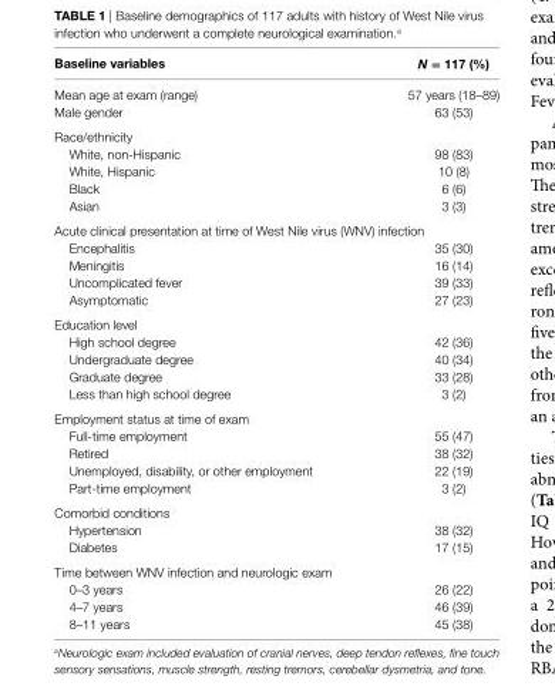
<table><thead><tr><td>Baseline variables</td><td>N = 117 (%)</td></tr></thead><tbody><tr><td>Mean age at exam (range)</td><td>57 years (18–89)</td></tr><tr><td>Male gender</td><td>63 (53)</td></tr><tr><td colspan="2">Race/ethnicity</td></tr><tr><td>White, non-Hispanic</td><td>98 (83)</td></tr><tr><td>White, Hispanic</td><td>10 (8)</td></tr><tr><td>Black</td><td>6 (6)</td></tr><tr><td>Asian</td><td>3 (3)</td></tr><tr><td colspan="2">Acute clinical presentation at time of West Nile virus (WNV) infection</td></tr><tr><td>Encephalitis</td><td>35 (30)</td></tr><tr><td>Meningitis</td><td>16 (14)</td></tr><tr><td>Uncomplicated fever</td><td>39 (33)</td></tr><tr><td>Asymptomatic</td><td>27 (23)</td></tr><tr><td colspan="2">Education level</td></tr><tr><td>High school degree</td><td>42 (36)</td></tr><tr><td>Undergraduate degree</td><td>40 (34)</td></tr><tr><td>Graduate degree</td><td>33 (28)</td></tr><tr><td>Less than high school degree</td><td>3 (2)</td></tr><tr><td colspan="2">Employment status at time of exam</td></tr><tr><td>Full-time employment</td><td>55 (47)</td></tr><tr><td>Retired</td><td>38 (32)</td></tr><tr><td>Unemployed, disability, or other employment</td><td>22 (19)</td></tr><tr><td>Part-time employment</td><td>3 (2)</td></tr><tr><td colspan="2">Comorbid conditions</td></tr><tr><td>Hypertension</td><td>38 (32)</td></tr><tr><td>Diabetes</td><td>17 (15)</td></tr><tr><td colspan="2">Time between WNV infection and neurologic exam</td></tr><tr><td>0–3 years</td><td>26 (22)</td></tr><tr><td>4–7 years</td><td>46 (39)</td></tr><tr><td>8–11 years</td><td>45 (38)</td></tr></tbody></table>